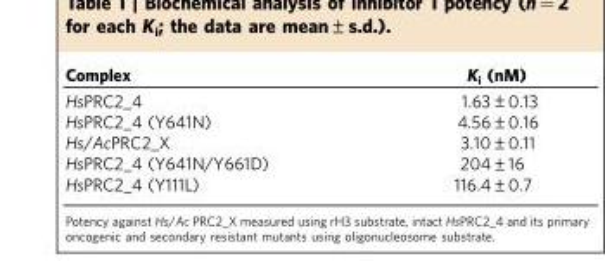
<table><thead><tr><td>Complex</td><td>K<sub>i</sub> (nM)</td></tr></thead><tbody><tr><td>HsPRC2_4</td><td>1.63±0.13</td></tr><tr><td>HsPRC2_4 (Y641N)</td><td>4.56±0.16</td></tr><tr><td>Hs/AcPRC2_X</td><td>3.10±0.11</td></tr><tr><td>HsPRC2_4 (Y641N/Y661D)</td><td>204±16</td></tr><tr><td>HsPRC2_4 (Y111L)</td><td>116.4±0.7</td></tr></tbody></table>